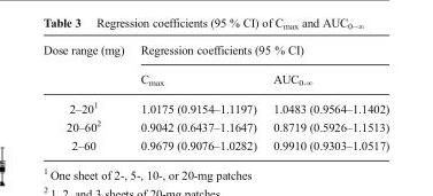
<table><thead><tr><td rowspan="2">Dose range (mg)</td><td colspan="2">Regression coefficients (95 % CI)</td></tr><tr><td>C<sub>max</sub></td><td>AUC<sub>0-∞</sub></td></tr></thead><tbody><tr><td>2–20<sup>1</sup></td><td>1.0175 (0.9154–1.1197)</td><td>1.0483 (0.9564–1.1402)</td></tr><tr><td>20–60<sup>2</sup></td><td>0.9042 (0.6437–1.1647)</td><td>0.8719 (0.5926–1.1513)</td></tr><tr><td>2–60</td><td>0.9679 (0.9076–1.0282)</td><td>0.9910 (0.9303–1.0517)</td></tr></tbody></table>